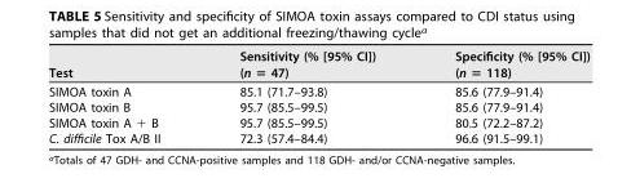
<table><thead><tr><td>Test</td><td>Sensitivity (% [95% CI]) (n = 47)</td><td>Specificity (% [95% CI]) (n = 118)</td></tr></thead><tbody><tr><td>SIMOA toxin A</td><td>85.1 (71.7–93.8)</td><td>85.6 (77.9–91.4)</td></tr><tr><td>SIMOA toxin B</td><td>95.7 (85.5–99.5)</td><td>85.6 (77.9–91.4)</td></tr><tr><td>SIMOA toxin A + B</td><td>95.7 (85.5–99.5)</td><td>80.5 (72.2–87.2)</td></tr><tr><td>C. difficile Tox A/B II</td><td>72.3 (57.4–84.4)</td><td>96.6 (91.5–99.1)</td></tr></tbody></table>